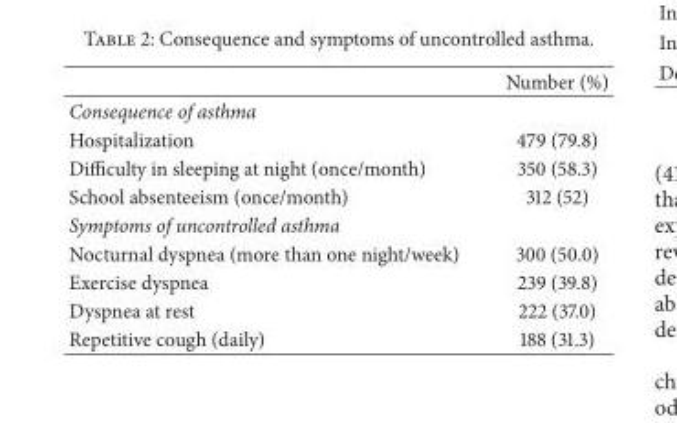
<table><thead><tr><td></td><td>Number (%)</td></tr></thead><tbody><tr><td colspan="2">Consequence of asthma</td></tr><tr><td>Hospitalization</td><td>479 (79.8)</td></tr><tr><td>Difficulty in sleeping at night (once/month)</td><td>350 (58.3)</td></tr><tr><td>School absenteeism (once/month)</td><td>312 (52)</td></tr><tr><td colspan="2">Symptoms of uncontrolled asthma</td></tr><tr><td>Nocturnal dyspnea (more than one night/week)</td><td>300 (50.0)</td></tr><tr><td>Exercise dyspnea</td><td>239 (39.8)</td></tr><tr><td>Dyspnea at rest</td><td>222 (37.0)</td></tr><tr><td>Repetitive cough (daily)</td><td>188 (31.3)</td></tr></tbody></table>